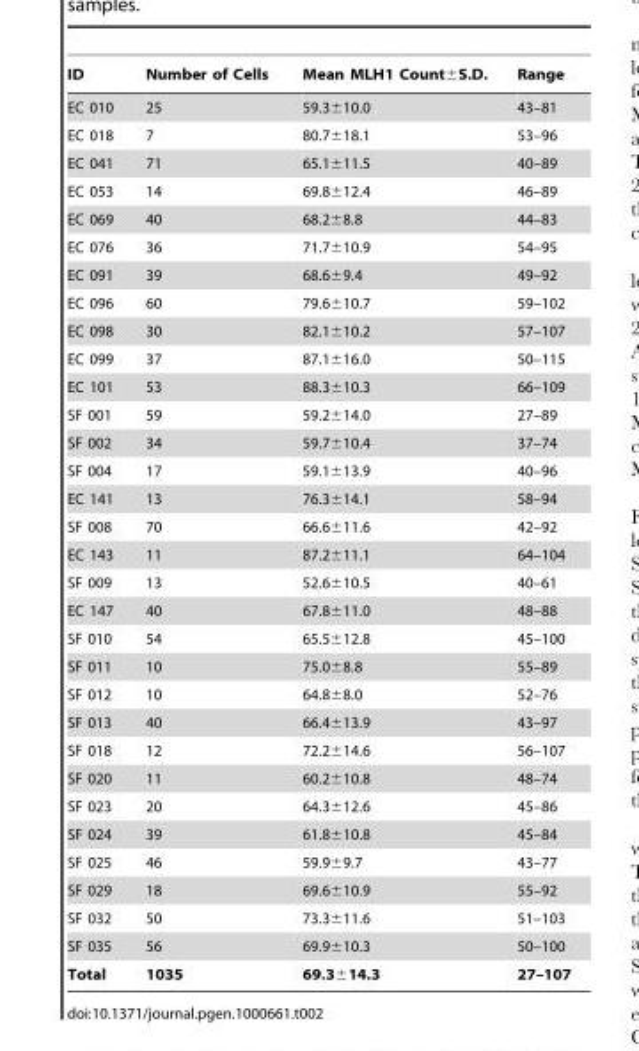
<table><thead><tr><td>ID</td><td>Number of Cells</td><td>Mean MLH1 Count±S.D.</td><td>Range</td></tr></thead><tbody><tr><td>EC 010</td><td>25</td><td>59.3±10.0</td><td>43–81</td></tr><tr><td>EC 018</td><td>7</td><td>80.7±18.1</td><td>53–96</td></tr><tr><td>EC 041</td><td>71</td><td>65.1±11.5</td><td>40–89</td></tr><tr><td>EC 053</td><td>14</td><td>69.8±12.4</td><td>46–89</td></tr><tr><td>EC 069</td><td>40</td><td>68.2±8.8</td><td>44–83</td></tr><tr><td>EC 076</td><td>36</td><td>71.7±10.9</td><td>54–95</td></tr><tr><td>EC 091</td><td>39</td><td>68.6±9.4</td><td>49–92</td></tr><tr><td>EC 096</td><td>60</td><td>79.6±10.7</td><td>59–102</td></tr><tr><td>EC 098</td><td>30</td><td>82.1±10.2</td><td>57–107</td></tr><tr><td>EC 099</td><td>37</td><td>87.1±16.0</td><td>50–115</td></tr><tr><td>EC 101</td><td>53</td><td>88.3±10.3</td><td>66–109</td></tr><tr><td>SF 001</td><td>59</td><td>59.2±14.0</td><td>27–89</td></tr><tr><td>SF 002</td><td>34</td><td>59.7±10.4</td><td>37–74</td></tr><tr><td>SF 004</td><td>17</td><td>59.1±13.9</td><td>40–96</td></tr><tr><td>EC 141</td><td>13</td><td>76.3±14.1</td><td>58–94</td></tr><tr><td>SF 008</td><td>70</td><td>66.6±11.6</td><td>42–92</td></tr><tr><td>EC 143</td><td>11</td><td>87.2±11.1</td><td>64–104</td></tr><tr><td>SF 009</td><td>13</td><td>52.6±10.5</td><td>40–61</td></tr><tr><td>EC 147</td><td>40</td><td>67.8±11.0</td><td>48–88</td></tr><tr><td>SF 010</td><td>54</td><td>65.5±12.8</td><td>45–100</td></tr><tr><td>SF 011</td><td>10</td><td>75.0±8.8</td><td>55–89</td></tr><tr><td>SF 012</td><td>10</td><td>64.8±8.0</td><td>52–76</td></tr><tr><td>SF 013</td><td>40</td><td>66.4±13.9</td><td>43–97</td></tr><tr><td>SF 018</td><td>12</td><td>72.2±14.6</td><td>56–107</td></tr><tr><td>SF 020</td><td>11</td><td>60.2±10.8</td><td>48–74</td></tr><tr><td>SF 023</td><td>20</td><td>64.3±12.6</td><td>45–86</td></tr><tr><td>SF 024</td><td>39</td><td>61.8±10.8</td><td>45–84</td></tr><tr><td>SF 025</td><td>46</td><td>59.9±9.7</td><td>43–77</td></tr><tr><td>SF 029</td><td>18</td><td>69.6±10.9</td><td>55–92</td></tr><tr><td>SF 032</td><td>50</td><td>73.3±11.6</td><td>51–103</td></tr><tr><td>SF 035</td><td>56</td><td>69.9±10.3</td><td>50–100</td></tr><tr><td>Total</td><td>1035</td><td>69.3±14.3</td><td>27–107</td></tr></tbody></table>